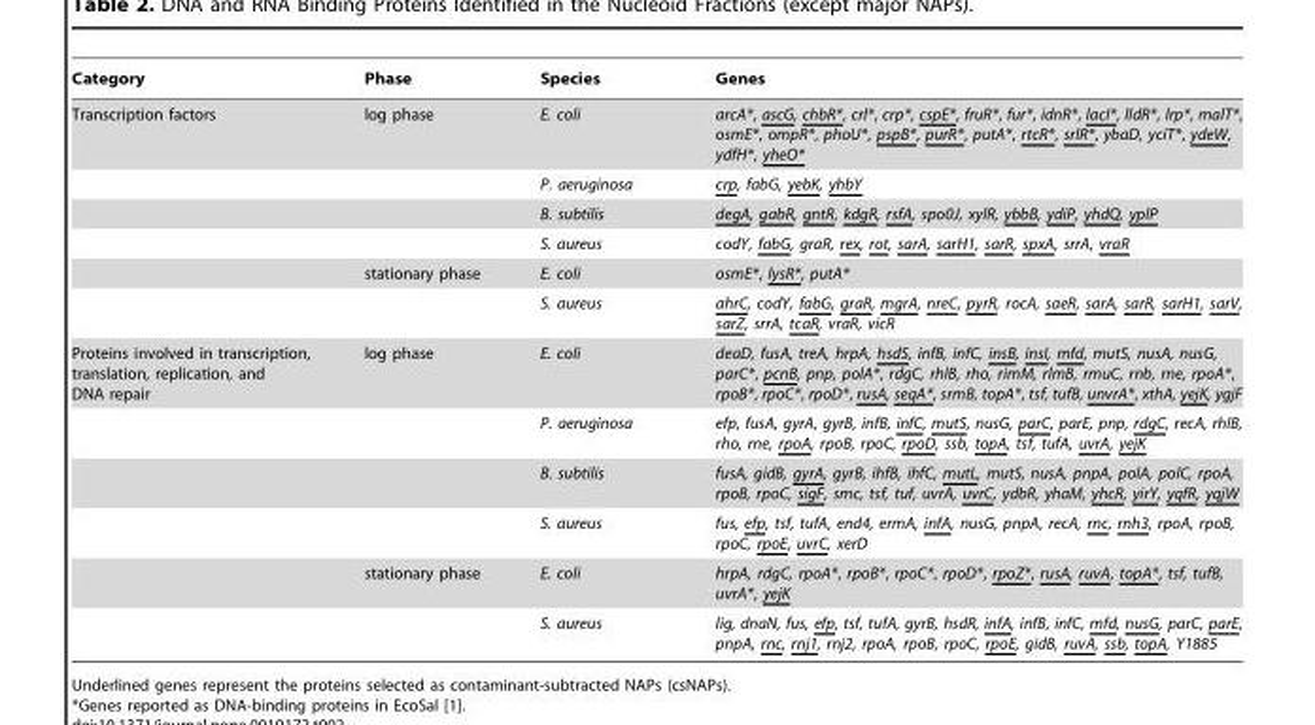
<table><thead><tr><td>Category</td><td>Phase</td><td>Species</td><td>Genes</td></tr></thead><tbody><tr><td rowspan="6">Transcription factors</td><td>log phase</td><td>E. coli</td><td>arcA*, ascG, chbR*, crl*, crp*, cspE*, fruR*, fur*, idnR*, lacI*, lldR*, lrp*, malT*, osmE*, ompR*, phoU*, pspB*, purR*, putA*, rtcR*, srlR*, ybaD, yciT*, ydeW, ydfH*, yheO*</td></tr><tr><td></td><td>P. aeruginosa</td><td>crp, fabG, yebK, yhbY</td></tr><tr><td></td><td>B. subtilis</td><td>degA, gabR, gntR, kdgR, rsfA, spo0J, xylR, ybbB, ydiP, yhdQ, yplP</td></tr><tr><td></td><td>S. aureus</td><td>codY, fabG, graR, rex, rot, sarA, sarH1, sarR, spxA, srrA, vraR</td></tr><tr><td>stationary phase</td><td>E. coli</td><td>osmE*, lysR*, putA*</td></tr><tr><td></td><td>S. aureus</td><td>ahrC, codY, fabG, graR, mgrA, nreC, pyrR, rocA, saeR, sarA, sarR, sarH1, sarV, sarZ, srrA, tcaR, vraR, vicR</td></tr><tr><td rowspan="6">Proteins involved in transcription, translation, replication, and DNA repair</td><td>log phase</td><td>E. coli</td><td>deaD, fusA, treA, hrpA, hsdS, infB, infC, insB, insI, mfd, mutS, nusA, nusG, parC*, pcnB, pnp, polA*, rdgC, rhlB, rho, rimM, rlmB, rmuC, rnb, rne, rpoA*, rpoB*, rpoC*, rpoD*, rusA, seqA*, srmB, topA*, tsf, tufB, unvrA*, xthA, yejK, ygjF</td></tr><tr><td></td><td>P. aeruginosa</td><td>efp, fusA, gyrA, gyrB, infB, infC, mutS, nusG, parC, parE, pnp, rdgC, recA, rhlB, rho, rne, rpoA, rpoB, rpoC, rpoD, ssb, topA, tsf, tufA, uvrA, yejK</td></tr><tr><td></td><td>B. subtilis</td><td>fusA, gidB, gyrA, gyrB, ihfB, ihfC, mutL, mutS, nusA, pnpA, polA, polC, rpoA, rpoB, rpoC, sigF, smc, tsf, tuf, uvrA, uvrC, ydbR, yhaM, yhcR, yirY, yqfR, yqjW</td></tr><tr><td></td><td>S. aureus</td><td>fus, efp, tsf, tufA, end4, ermA, infA, nusG, pnpA, recA, rnc, rnh3, rpoA, rpoB, rpoC, rpoE, uvrC, xerD</td></tr><tr><td>stationary phase</td><td>E. coli</td><td>hrpA, rdgC, rpoA*, rpoB*, rpoC*, rpoD*, rpoZ*, rusA, ruvA, topA*, tsf, tufB, uvrA*, yejK</td></tr><tr><td></td><td>S. aureus</td><td>lig, dnaN, fus, efp, tsf, tufA, gyrB, hsdR, infA, infB, infC, mfd, nusG, parC, parE, pnpA, rnc, rnj1, rnj2, rpoA, rpoB, rpoC, rpoE, gidB, ruvA, ssb, topA, Y1885</td></tr></tbody></table>